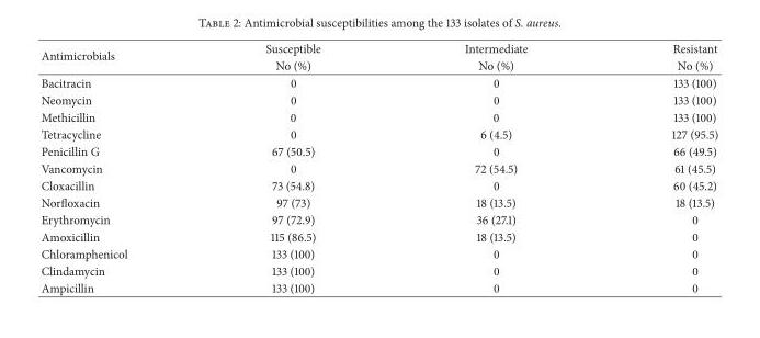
<table><thead><tr><td rowspan="2">Antimicrobials</td><td rowspan="2">Susceptible No (%)</td><td rowspan="2">Intermediate No (%)</td><td rowspan="2">Resistant No (%)</td></tr><tr></tr></thead><tbody><tr><td>Bacitracin</td><td>0</td><td>0</td><td>133 (100)</td></tr><tr><td>Neomycin</td><td>0</td><td>0</td><td>133 (100)</td></tr><tr><td>Methicillin</td><td>0</td><td>0</td><td>133 (100)</td></tr><tr><td>Tetracycline</td><td>0</td><td>6 (4.5)</td><td>127 (95.5)</td></tr><tr><td>Penicillin G</td><td>67 (50.5)</td><td>0</td><td>66 (49.5)</td></tr><tr><td>Vancomycin</td><td>0</td><td>72 (54.5)</td><td>61 (45.5)</td></tr><tr><td>Cloxacillin</td><td>73 (54.8)</td><td>0</td><td>60 (45.2)</td></tr><tr><td>Norfloxacin</td><td>97 (73)</td><td>18 (13.5)</td><td>18 (13.5)</td></tr><tr><td>Erythromycin</td><td>97 (72.9)</td><td>36 (27.1)</td><td>0</td></tr><tr><td>Amoxicillin</td><td>115 (86.5)</td><td>18 (13.5)</td><td>0</td></tr><tr><td>Chloramphenicol</td><td>133 (100)</td><td>0</td><td>0</td></tr><tr><td>Clindamycin</td><td>133 (100)</td><td>0</td><td>0</td></tr><tr><td>Ampicillin</td><td>133 (100)</td><td>0</td><td>0</td></tr></tbody></table>